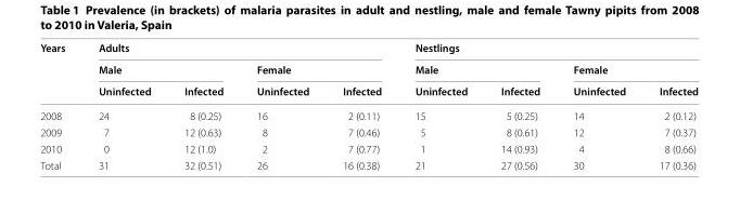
<table><thead><tr><td rowspan="3">Years</td><td colspan="4">Adults</td><td colspan="4">Nestlings</td></tr><tr><td colspan="2">Male</td><td colspan="2">Female</td><td colspan="2">Male</td><td colspan="2">Female</td></tr><tr><td>Uninfected</td><td>Infected</td><td>Uninfected</td><td>Infected</td><td>Uninfected</td><td>Infected</td><td>Uninfected</td><td>Infected</td></tr></thead><tbody><tr><td>2008</td><td>24</td><td>8 (0.25)</td><td>16</td><td>2 (0.11)</td><td>15</td><td>5 (0.25)</td><td>14</td><td>2 (0.12)</td></tr><tr><td>2009</td><td>7</td><td>12 (0.63)</td><td>8</td><td>7 (0.46)</td><td>5</td><td>8 (0.61)</td><td>12</td><td>7 (0.37)</td></tr><tr><td>2010</td><td>0</td><td>12 (1.0)</td><td>2</td><td>7 (0.77)</td><td>1</td><td>14 (0.93)</td><td>4</td><td>8 (0.66)</td></tr><tr><td>Total</td><td>31</td><td>32 (0.51)</td><td>26</td><td>16 (0.38)</td><td>21</td><td>27 (0.56)</td><td>30</td><td>17 (0.36)</td></tr></tbody></table>